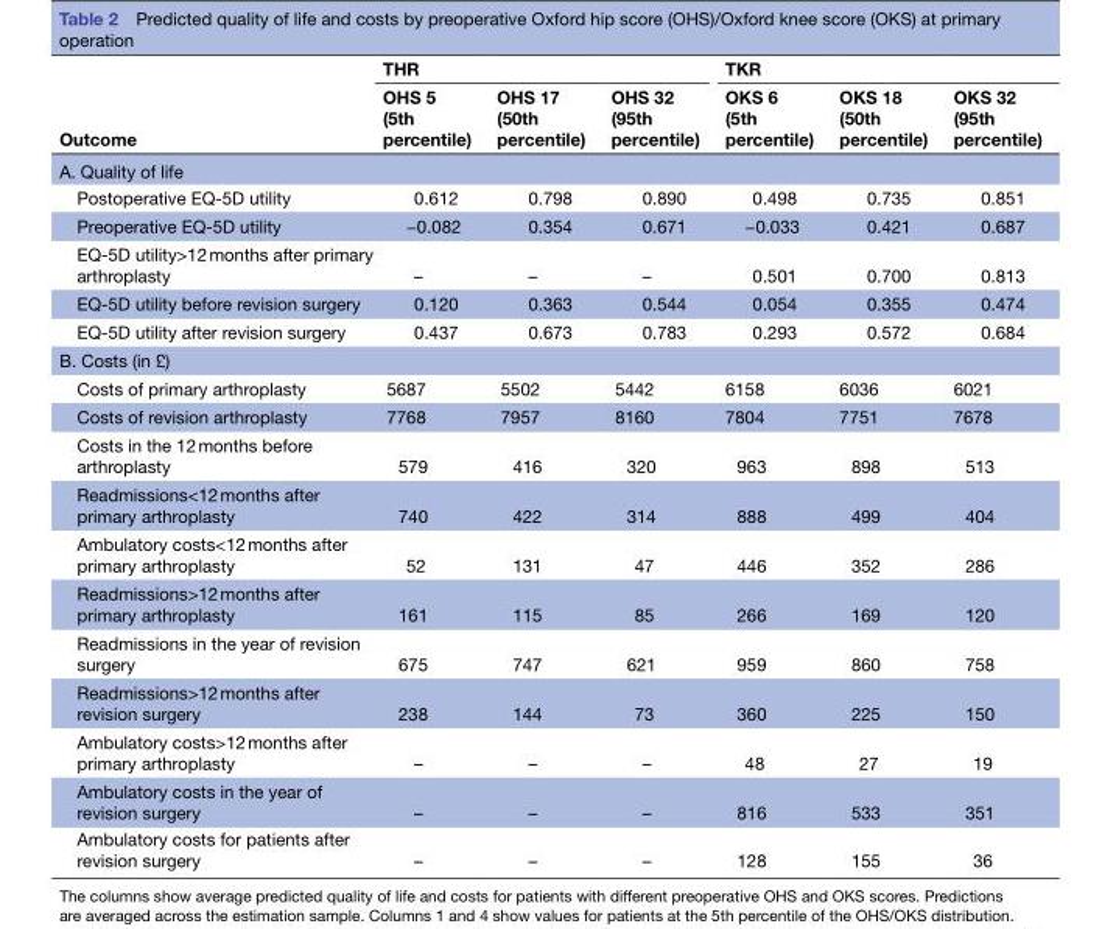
<table><thead><tr><td rowspan="2">Outcome</td><td colspan="3">THR</td><td colspan="3">TKR</td></tr><tr><td>OHS 5 (5th percentile)</td><td>OHS 17 (50th percentile)</td><td>OHS 32 (95th percentile)</td><td>OKS 6 (5th percentile)</td><td>OKS 18 (50th percentile)</td><td>OKS 32 (95th percentile)</td></tr></thead><tbody><tr><td colspan="7">A. Quality of life</td></tr><tr><td>Postoperative EQ-5D utility</td><td>0.612</td><td>0.798</td><td>0.890</td><td>0.498</td><td>0.735</td><td>0.851</td></tr><tr><td>Preoperative EQ-5D utility</td><td>−0.082</td><td>0.354</td><td>0.671</td><td>−0.033</td><td>0.421</td><td>0.687</td></tr><tr><td>EQ-5D utility&gt;12 months after primary arthroplasty</td><td>–</td><td>–</td><td>–</td><td>0.501</td><td>0.700</td><td>0.813</td></tr><tr><td>EQ-5D utility before revision surgery</td><td>0.120</td><td>0.363</td><td>0.544</td><td>0.054</td><td>0.355</td><td>0.474</td></tr><tr><td>EQ-5D utility after revision surgery</td><td>0.437</td><td>0.673</td><td>0.783</td><td>0.293</td><td>0.572</td><td>0.684</td></tr><tr><td colspan="7">B. Costs (in £)</td></tr><tr><td>Costs of primary arthroplasty</td><td>5687</td><td>5502</td><td>5442</td><td>6158</td><td>6036</td><td>6021</td></tr><tr><td>Costs of revision arthroplasty</td><td>7768</td><td>7957</td><td>8160</td><td>7804</td><td>7751</td><td>7678</td></tr><tr><td>Costs in the 12 months before arthroplasty</td><td>579</td><td>416</td><td>320</td><td>963</td><td>898</td><td>513</td></tr><tr><td>Readmissions&lt;12 months after primary arthroplasty</td><td>740</td><td>422</td><td>314</td><td>888</td><td>499</td><td>404</td></tr><tr><td>Ambulatory costs&lt;12 months after primary arthroplasty</td><td>52</td><td>131</td><td>47</td><td>446</td><td>352</td><td>286</td></tr><tr><td>Readmissions&gt;12 months after primary arthroplasty</td><td>161</td><td>115</td><td>85</td><td>266</td><td>169</td><td>120</td></tr><tr><td>Readmissions in the year of revision surgery</td><td>675</td><td>747</td><td>621</td><td>959</td><td>860</td><td>758</td></tr><tr><td>Readmissions&gt;12 months after revision surgery</td><td>238</td><td>144</td><td>73</td><td>360</td><td>225</td><td>150</td></tr><tr><td>Ambulatory costs&gt;12 months after primary arthroplasty</td><td>–</td><td>–</td><td>–</td><td>48</td><td>27</td><td>19</td></tr><tr><td>Ambulatory costs in the year of revision surgery</td><td>–</td><td>–</td><td>–</td><td>816</td><td>533</td><td>351</td></tr><tr><td>Ambulatory costs for patients after revision surgery</td><td>–</td><td>–</td><td>–</td><td>128</td><td>155</td><td>36</td></tr></tbody></table>